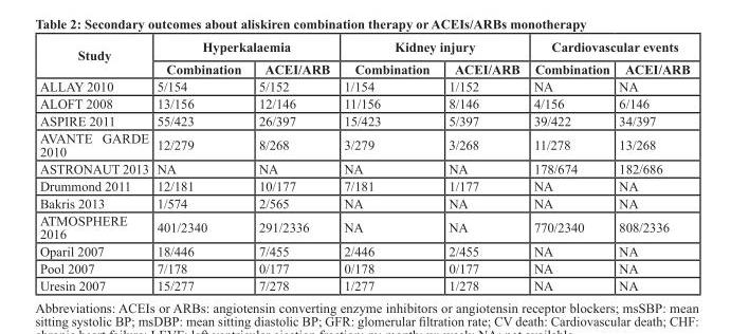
<table><thead><tr><td rowspan="2">Study</td><td colspan="2">Hyperkalaemia</td><td colspan="2">Kidney injury</td><td colspan="2">Cardiovascular events</td></tr><tr><td>Combination</td><td>ACEI/ARB</td><td>Combination</td><td>ACEI/ARB</td><td>Combination</td><td>ACEI/ARB</td></tr></thead><tbody><tr><td>ALLAY 2010</td><td>5/154</td><td>5/152</td><td>1/154</td><td>1/152</td><td>NA</td><td>NA</td></tr><tr><td>ALOFT 2008</td><td>13/156</td><td>12/146</td><td>11/156</td><td>8/146</td><td>4/156</td><td>6/146</td></tr><tr><td>ASPIRE 2011</td><td>55/423</td><td>26/397</td><td>15/423</td><td>5/397</td><td>39/422</td><td>34/397</td></tr><tr><td>AVANTE GARDE 2010</td><td>12/279</td><td>8/268</td><td>3/279</td><td>3/268</td><td>11/278</td><td>13/268</td></tr><tr><td>ASTRONAUT 2013</td><td>NA</td><td>NA</td><td>NA</td><td>NA</td><td>178/674</td><td>182/686</td></tr><tr><td>Drummond 2011</td><td>12/181</td><td>10/177</td><td>7/181</td><td>1/177</td><td>NA</td><td>NA</td></tr><tr><td>Bakris 2013</td><td>1/574</td><td>2/565</td><td>NA</td><td>NA</td><td>NA</td><td>NA</td></tr><tr><td>ATMOSPHERE 2016</td><td>401/2340</td><td>291/2336</td><td>NA</td><td>NA</td><td>770/2340</td><td>808/2336</td></tr><tr><td>Oparil 2007</td><td>18/446</td><td>7/455</td><td>2/446</td><td>2/455</td><td>NA</td><td>NA</td></tr><tr><td>Pool 2007</td><td>7/178</td><td>0/177</td><td>0/178</td><td>0/177</td><td>NA</td><td>NA</td></tr><tr><td>Uresin 2007</td><td>15/277</td><td>7/278</td><td>1/277</td><td>1/278</td><td>NA</td><td>NA</td></tr></tbody></table>